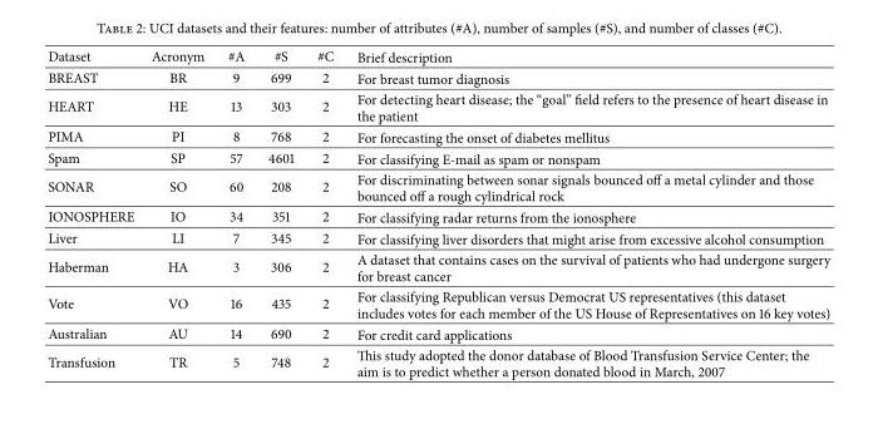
<table><thead><tr><td>Dataset</td><td>Acronym</td><td>#A</td><td>#S</td><td>#C</td><td>Brief description</td></tr></thead><tbody><tr><td>BREAST</td><td>BR</td><td>9</td><td>699</td><td>2</td><td>For breast tumor diagnosis</td></tr><tr><td>HEART</td><td>HE</td><td>13</td><td>303</td><td>2</td><td>For detecting heart disease; the “goal” field refers to the presence of heart disease in the patient</td></tr><tr><td>PIMA</td><td>PI</td><td>8</td><td>768</td><td>2</td><td>For forecasting the onset of diabetes mellitus</td></tr><tr><td>Spam</td><td>SP</td><td>57</td><td>4601</td><td>2</td><td>For classifying E-mail as spam or nonspam</td></tr><tr><td>SONAR</td><td>SO</td><td>60</td><td>208</td><td>2</td><td>For discriminating between sonar signals bounced off a metal cylinder and those bounced off a rough cylindrical rock</td></tr><tr><td>IONOSPHERE</td><td>IO</td><td>34</td><td>351</td><td>2</td><td>For classifying radar returns from the ionosphere</td></tr><tr><td>Liver</td><td>LI</td><td>7</td><td>345</td><td>2</td><td>For classifying liver disorders that might arise from excessive alcohol consumption</td></tr><tr><td>Haberman</td><td>HA</td><td>3</td><td>306</td><td>2</td><td>A dataset that contains cases on the survival of patients who had undergone surgery for breast cancer</td></tr><tr><td>Vote</td><td>VO</td><td>16</td><td>435</td><td>2</td><td>For classifying Republican versus Democrat US representatives (this dataset includes votes for each member of the US House of Representatives on 16 key votes)</td></tr><tr><td>Australian</td><td>AU</td><td>14</td><td>690</td><td>2</td><td>For credit card applications</td></tr><tr><td>Transfusion</td><td>TR</td><td>5</td><td>748</td><td>2</td><td>This study adopted the donor database of Blood Transfusion Service Center; the aim is to predict whether a person donated blood in March, 2007</td></tr></tbody></table>